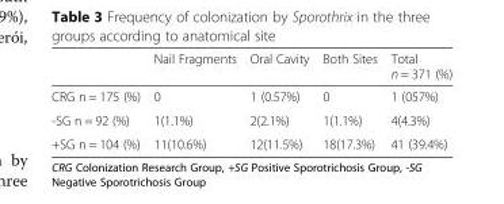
<table><thead><tr><td></td><td>Nail Fragments</td><td>Oral Cavity</td><td>Both Sites</td><td>Total n = 371 (%)</td></tr></thead><tbody><tr><td>CRG n = 175 (%)</td><td>0</td><td>1 (0.57%)</td><td>0</td><td>1 (057%)</td></tr><tr><td>-SG n = 92 (%)</td><td>1(1.1%)</td><td>2(2.1%)</td><td>1(1.1%)</td><td>4(4.3%)</td></tr><tr><td>+SG n = 104 (%)</td><td>11(10.6%)</td><td>12(11.5%)</td><td>18(17.3%)</td><td>41 (39.4%)</td></tr></tbody></table>